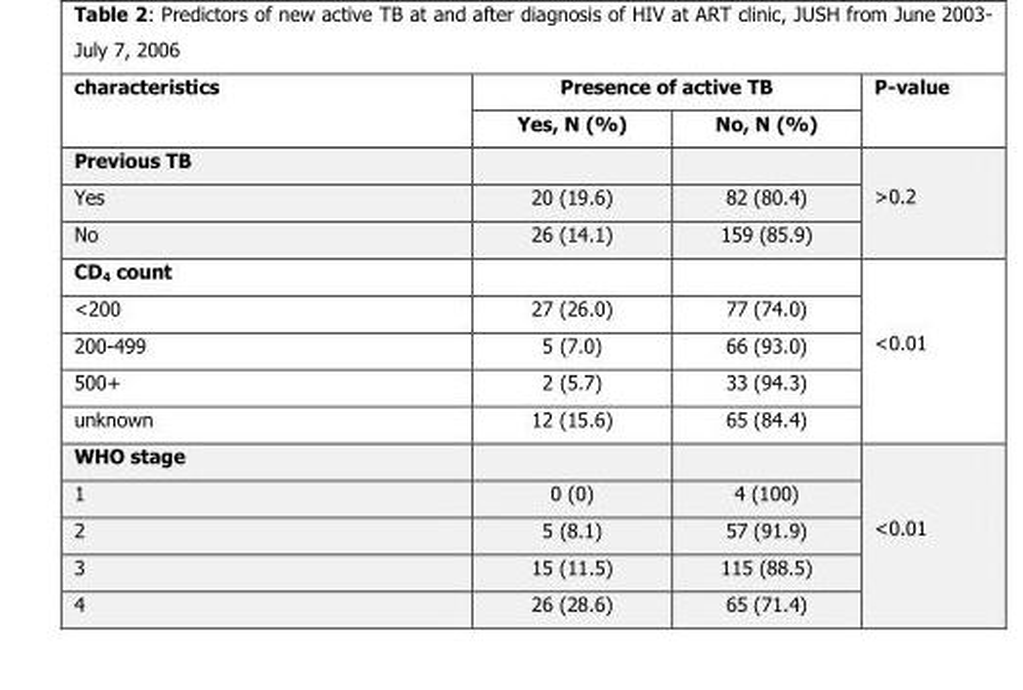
<table><thead><tr><td rowspan="2">characteristics</td><td colspan="2">Presence of active TB</td><td rowspan="2">P-value</td></tr><tr><td>Yes, N (%)</td><td>No, N (%)</td></tr></thead><tbody><tr><td colspan="3">Previous TB</td><td rowspan="3">&gt;0.2</td></tr><tr><td>Yes</td><td>20 (19.6)</td><td>82 (80.4)</td></tr><tr><td>No</td><td>26 (14.1)</td><td>159 (85.9)</td></tr><tr><td colspan="3">CD<sub>4</sub> count</td><td rowspan="5">&lt;0.01</td></tr><tr><td>&lt;200</td><td>27 (26.0)</td><td>77 (74.0)</td></tr><tr><td>200-499</td><td>5 (7.0)</td><td>66 (93.0)</td></tr><tr><td>500+</td><td>2 (5.7)</td><td>33 (94.3)</td></tr><tr><td>unknown</td><td>12 (15.6)</td><td>65 (84.4)</td></tr><tr><td colspan="3">WHO stage</td><td rowspan="5">&lt;0.01</td></tr><tr><td>1</td><td>0 (0)</td><td>4 (100)</td></tr><tr><td>2</td><td>5 (8.1)</td><td>57 (91.9)</td></tr><tr><td>3</td><td>15 (11.5)</td><td>115 (88.5)</td></tr><tr><td>4</td><td>26 (28.6)</td><td>65 (71.4)</td></tr></tbody></table>